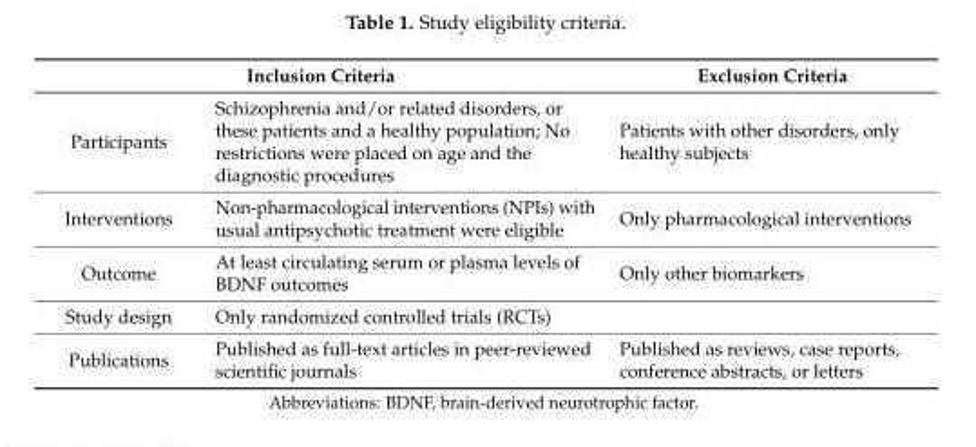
<table><thead><tr><td colspan="2">Inclusion Criteria</td><td rowspan="2">Exclusion Criteria Patients with other disorders, only healthy subjects</td></tr><tr><td>Participants</td><td>Schizophrenia and/or related disorders, or these patients and a healthy population; No restrictions were placed on age and the diagnostic procedures</td></tr></thead><tbody><tr><td>Interventions</td><td>Non-pharmacological interventions (NPIs) with usual antipsychotic treatment were eligible</td><td>Only pharmacological interventions</td></tr><tr><td>Outcome</td><td>At least circulating serum or plasma levels of BDNF outcomes</td><td>Only other biomarkers</td></tr><tr><td>Study design</td><td>Only randomized controlled trials (RCTs)</td><td></td></tr><tr><td>Publications</td><td>Published as full-text articles in peer-reviewed scientific journals</td><td>Published as reviews, case reports, conference abstracts, or letters</td></tr></tbody></table>